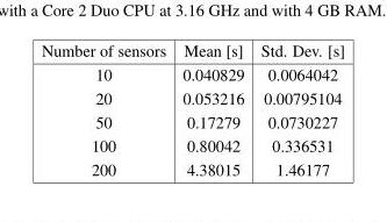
<table><thead><tr><td>Number of sensors</td><td>Mean [s]</td><td>Std. Dev. [s]</td></tr></thead><tbody><tr><td>10</td><td>0.040829</td><td>0.0064042</td></tr><tr><td>20</td><td>0.053216</td><td>0.00795104</td></tr><tr><td>50</td><td>0.17279</td><td>0.0730227</td></tr><tr><td>100</td><td>0.80042</td><td>0.336531</td></tr><tr><td>200</td><td>4.38015</td><td>1.46177</td></tr></tbody></table>